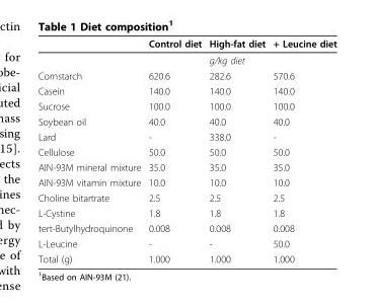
<table><thead><tr><td></td><td>Control diet</td><td>High-fat diet</td><td>+ Leucine diet</td></tr></thead><tbody><tr><td></td><td></td><td>g/kg diet</td><td></td></tr><tr><td>Cornstarch</td><td>620.6</td><td>282.6</td><td>570.6</td></tr><tr><td>Casein</td><td>140.0</td><td>140.0</td><td>140.0</td></tr><tr><td>Sucrose</td><td>100.0</td><td>100.0</td><td>100.0</td></tr><tr><td>Soybean oil</td><td>40.0</td><td>40.0</td><td>40.0</td></tr><tr><td>Lard</td><td>-</td><td>338.0</td><td>-</td></tr><tr><td>Cellulose</td><td>50.0</td><td>50.0</td><td>50.0</td></tr><tr><td>AIN-93M mineral mixture</td><td>35.0</td><td>35.0</td><td>35.0</td></tr><tr><td>AIN-93M vitamin mixture</td><td>10.0</td><td>10.0</td><td>10.0</td></tr><tr><td>Choline bitartrate</td><td>2.5</td><td>2.5</td><td>2.5</td></tr><tr><td>L-Cystine</td><td>1.8</td><td>1.8</td><td>1.8</td></tr><tr><td>tert-Butylhydroquinone</td><td>0.008</td><td>0.008</td><td>0.008</td></tr><tr><td>L-Leucine</td><td>-</td><td>-</td><td>50.0</td></tr><tr><td>Total (g)</td><td>1.000</td><td>1.000</td><td>1.000</td></tr></tbody></table>